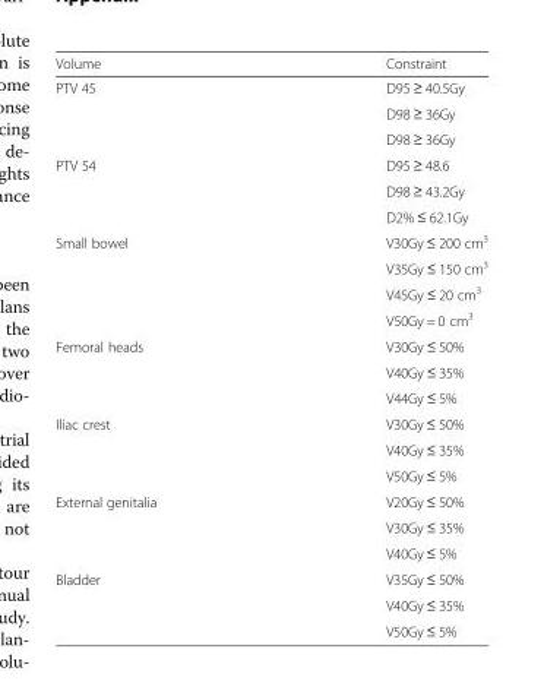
<table><thead><tr><td>Volume</td><td>Constraint</td></tr></thead><tbody><tr><td rowspan="3">PTV 45</td><td>D95 ≥ 40.5Gy</td></tr><tr><td>D98 ≥ 36Gy</td></tr><tr><td>D98 ≥ 36Gy</td></tr><tr><td rowspan="3">PTV 54</td><td>D95 ≥ 48.6</td></tr><tr><td>D98 ≥ 43.2Gy</td></tr><tr><td>D2% ≤ 62.1Gy</td></tr><tr><td rowspan="4">Small bowel</td><td>V30Gy ≤ 200 cm<sup>3</sup></td></tr><tr><td>V35Gy ≤ 150 cm<sup>3</sup></td></tr><tr><td>V45Gy ≤ 20 cm<sup>3</sup></td></tr><tr><td>V50Gy = 0 cm<sup>3</sup></td></tr><tr><td rowspan="3">Femoral heads</td><td>V30Gy ≤ 50%</td></tr><tr><td>V40Gy ≤ 35%</td></tr><tr><td>V44Gy ≤ 5%</td></tr><tr><td rowspan="3">Iliac crest</td><td>V30Gy ≤ 50%</td></tr><tr><td>V40Gy ≤ 35%</td></tr><tr><td>V50Gy ≤ 5%</td></tr><tr><td rowspan="3">External genitalia</td><td>V20Gy ≤ 50%</td></tr><tr><td>V30Gy ≤ 35%</td></tr><tr><td>V40Gy ≤ 5%</td></tr><tr><td rowspan="3">Bladder</td><td>V35Gy ≤ 50%</td></tr><tr><td>V40Gy ≤ 35%</td></tr><tr><td>V50Gy ≤ 5%</td></tr></tbody></table>